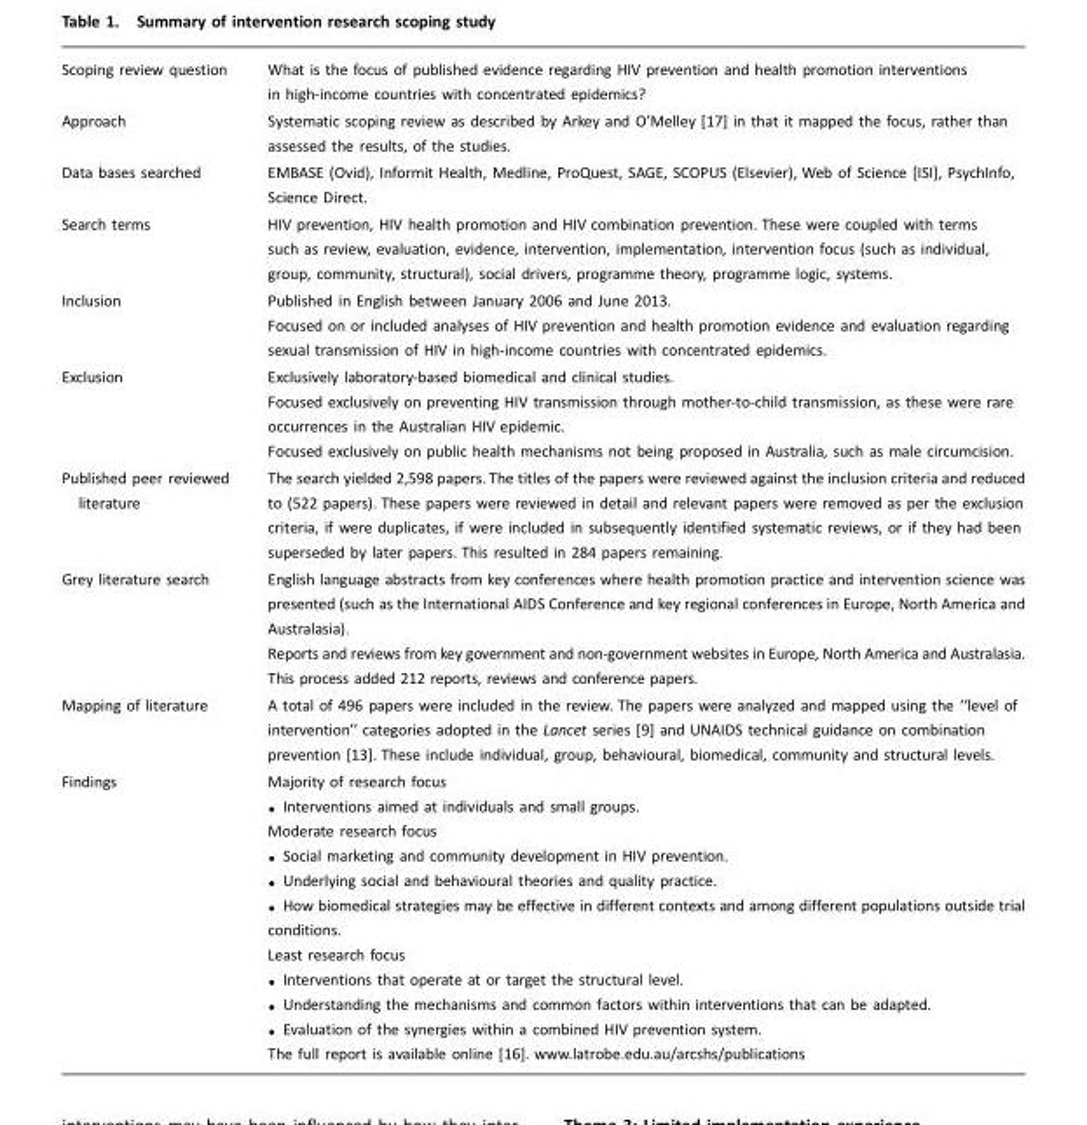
<table><tbody><tr><td>Scoping review question</td><td>What is the focus of published evidence regarding HIV prevention and health promotion interventions in high-income countries with concentrated epidemics?</td></tr><tr><td>Approach</td><td>Systematic scoping review as described by Arkey and O’Melley [17] in that it mapped the focus, rather than assessed the results, of the studies.</td></tr><tr><td>Data bases searched</td><td>EMBASE (Ovid), Informit Health, Medline, ProQuest, SAGE, SCOPUS (Elsevier), Web of Science [ISI], PsychInfo, Science Direct.</td></tr><tr><td>Search terms</td><td>HIV prevention, HIV health promotion and HIV combination prevention. These were coupled with terms such as review, evaluation, evidence, intervention, implementation, intervention focus (such as individual, group, community, structural), social drivers, programme theory, programme logic, systems.</td></tr><tr><td>Inclusion</td><td>Published in English between January 2006 and June 2013. Focused on or included analyses of HIV prevention and health promotion evidence and evaluation regarding sexual transmission of HIV in high-income countries with concentrated epidemics.</td></tr><tr><td>Exclusion</td><td>Exclusively laboratory-based biomedical and clinical studies. Focused exclusively on preventing HIV transmission through mother-to-child transmission, as these were rare occurrences in the Australian HIV epidemic. Focused exclusively on public health mechanisms not being proposed in Australia, such as male circumcision.</td></tr><tr><td>Published peer reviewed literature</td><td>The search yielded 2,598 papers. The titles of the papers were reviewed against the inclusion criteria and reduced to (522 papers). These papers were reviewed in detail and relevant papers were removed as per the exclusion criteria, if were duplicates, if were included in subsequently identified systematic reviews, or if they had been superseded by later papers. This resulted in 284 papers remaining.</td></tr><tr><td>Grey literature search</td><td>English language abstracts from key conferences where health promotion practice and intervention science was presented (such as the International AIDS Conference and key regional conferences in Europe, North America and Australasia). Reports and reviews from key government and non-government websites in Europe, North America and Australasia. This process added 212 reports, reviews and conference papers.</td></tr><tr><td>Mapping of literature</td><td>A total of 496 papers were included in the review. The papers were analyzed and mapped using the ‘‘level of intervention’’ categories adopted in the Lancet series [9] and UNAIDS technical guidance on combination prevention [13]. These include individual, group, behavioural, biomedical, community and structural levels.</td></tr><tr><td rowspan="2">Findings</td><td>Majority of research focus • Interventions aimed at individuals and small groups. Moderate research focus • Social marketing and community development in HIV prevention. • Underlying social and behavioural theories and quality practice. • How biomedical strategies may be effective in different contexts and among different populations outside trial conditions. Least research focus • Interventions that operate at or target the structural level. • Understanding the mechanisms and common factors within interventions that can be adapted. • Evaluation of the synergies within a combined HIV prevention system.</td></tr><tr><td>The full report is available online [16]. www.latrobe.edu.au/arcshs/publications</td></tr></tbody></table>